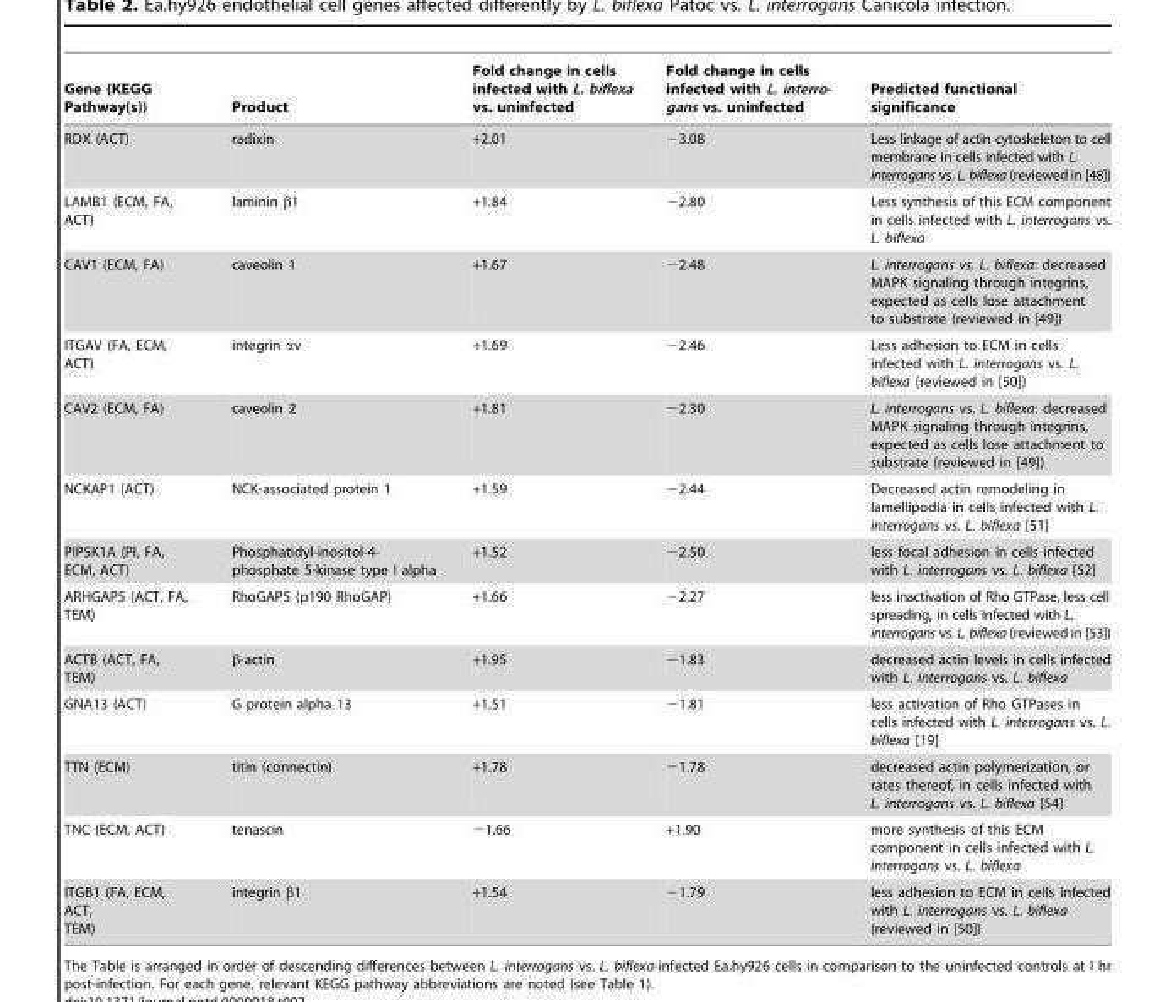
<table><thead><tr><td>Gene (KEGG Pathway(s))</td><td>Product</td><td>Fold change in cells infected with L. biflexa vs. uninfected</td><td>Fold change in cells infected with L. interro- gans vs. uninfected</td><td>Predicted functional significance</td></tr></thead><tbody><tr><td>RDX (ACT)</td><td>radixin</td><td>+2.01</td><td>−3.08</td><td>Less linkage of actin cytoskeleton to cell membrane in cells infected with L. interrogans vs. L. biflexa (reviewed in [48])</td></tr><tr><td>LAMB1 (ECM, FA, ACT)</td><td>laminin β1</td><td>+1.84</td><td>−2.80</td><td>Less synthesis of this ECM component in cells infected with L. interrogans vs. L. biflexa</td></tr><tr><td>CAV1 (ECM, FA)</td><td>caveolin 1</td><td>+1.67</td><td>−2.48</td><td>L. interrogans vs. L. biflexa: decreased MAPK signaling through integrins, expected as cells lose attachment to substrate (reviewed in [49])</td></tr><tr><td>ITGAV (FA, ECM, ACT)</td><td>integrin αv</td><td>+1.69</td><td>−2.46</td><td>Less adhesion to ECM in cells infected with L. interrogans vs. L. biflexa (reviewed in [50])</td></tr><tr><td>CAV2 (ECM, FA)</td><td>caveolin 2</td><td>+1.81</td><td>−2.30</td><td>L. interrogans vs. L. biflexa: decreased MAPK signaling through integrins, expected as cells lose attachment to substrate (reviewed in [49])</td></tr><tr><td>NCKAP1 (ACT)</td><td>NCK-associated protein 1</td><td>+1.59</td><td>−2.44</td><td>Decreased actin remodeling in lamellipodia in cells infected with L. interrogans vs. L. biflexa [51]</td></tr><tr><td>PIP5K1A (PI, FA, ECM, ACT)</td><td>Phosphatidyl-inositol-4- phosphate 5-kinase type I alpha</td><td>+1.52</td><td>−2.50</td><td>less focal adhesion in cells infected with L. interrogans vs. L. biflexa [52]</td></tr><tr><td>ARHGAP5 (ACT, FA, TEM)</td><td>RhoGAP5 (p190 RhoGAP)</td><td>+1.66</td><td>−2.27</td><td>less inactivation of Rho GTPase, less cell spreading, in cells infected with L. interrogans vs. L. biflexa (reviewed in [53])</td></tr><tr><td>ACTB (ACT, FA, TEM)</td><td>β-actin</td><td>+1.95</td><td>−1.83</td><td>decreased actin levels in cells infected with L. interrogans vs. L. biflexa</td></tr><tr><td>GNA13 (ACT)</td><td>G protein alpha 13</td><td>+1.51</td><td>−1.81</td><td>less activation of Rho GTPases in cells infected with L. interrogans vs. L. biflexa [19]</td></tr><tr><td>TTN (ECM)</td><td>titin (connectin)</td><td>+1.78</td><td>−1.78</td><td>decreased actin polymerization, or rates thereof, in cells infected with L. interrogans vs. L. biflexa [54]</td></tr><tr><td>TNC (ECM, ACT)</td><td>tenascin</td><td>−1.66</td><td>+1.90</td><td>more synthesis of this ECM component in cells infected with L. interrogans vs. L. biflexa</td></tr><tr><td>ITGB1 (FA, ECM, ACT, TEM)</td><td>integrin β1</td><td>+1.54</td><td>−1.79</td><td>less adhesion to ECM in cells infected with L. interrogans vs. L. biflexa (reviewed in [50])</td></tr></tbody></table>